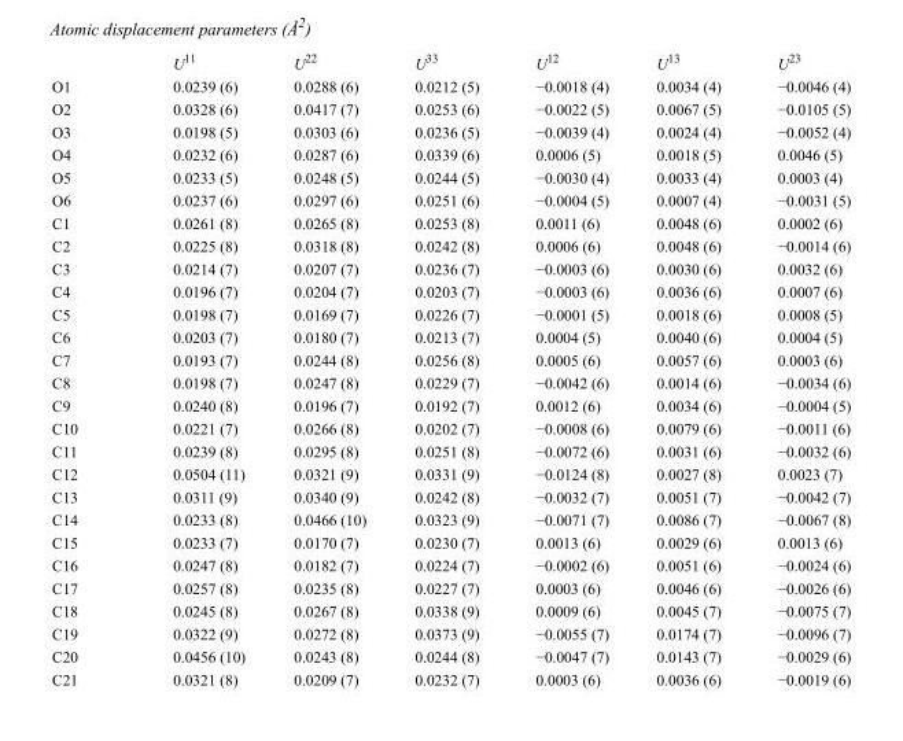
<table><thead><tr><td></td><td>U<sup>11</sup></td><td>U<sup>22</sup></td><td>U<sup>33</sup></td><td>U<sup>12</sup></td><td>U<sup>13</sup></td><td>U<sup>23</sup></td></tr></thead><tbody><tr><td>O1</td><td>0.0239 (6)</td><td>0.0288 (6)</td><td>0.0212 (5)</td><td>−0.0018 (4)</td><td>0.0034 (4)</td><td>−0.0046 (4)</td></tr><tr><td>O2</td><td>0.0328 (6)</td><td>0.0417 (7)</td><td>0.0253 (6)</td><td>−0.0022 (5)</td><td>0.0067 (5)</td><td>−0.0105 (5)</td></tr><tr><td>O3</td><td>0.0198 (5)</td><td>0.0303 (6)</td><td>0.0236 (5)</td><td>−0.0039 (4)</td><td>0.0024 (4)</td><td>−0.0052 (4)</td></tr><tr><td>O4</td><td>0.0232 (6)</td><td>0.0287 (6)</td><td>0.0339 (6)</td><td>0.0006 (5)</td><td>0.0018 (5)</td><td>0.0046 (5)</td></tr><tr><td>O5</td><td>0.0233 (5)</td><td>0.0248 (5)</td><td>0.0244 (5)</td><td>−0.0030 (4)</td><td>0.0033 (4)</td><td>0.0003 (4)</td></tr><tr><td>O6</td><td>0.0237 (6)</td><td>0.0297 (6)</td><td>0.0251 (6)</td><td>−0.0004 (5)</td><td>0.0007 (4)</td><td>−0.0031 (5)</td></tr><tr><td>C1</td><td>0.0261 (8)</td><td>0.0265 (8)</td><td>0.0253 (8)</td><td>0.0011 (6)</td><td>0.0048 (6)</td><td>0.0002 (6)</td></tr><tr><td>C2</td><td>0.0225 (8)</td><td>0.0318 (8)</td><td>0.0242 (8)</td><td>0.0006 (6)</td><td>0.0048 (6)</td><td>−0.0014 (6)</td></tr><tr><td>C3</td><td>0.0214 (7)</td><td>0.0207 (7)</td><td>0.0236 (7)</td><td>−0.0003 (6)</td><td>0.0030 (6)</td><td>0.0032 (6)</td></tr><tr><td>C4</td><td>0.0196 (7)</td><td>0.0204 (7)</td><td>0.0203 (7)</td><td>−0.0003 (6)</td><td>0.0036 (6)</td><td>0.0007 (6)</td></tr><tr><td>C5</td><td>0.0198 (7)</td><td>0.0169 (7)</td><td>0.0226 (7)</td><td>−0.0001 (5)</td><td>0.0018 (6)</td><td>0.0008 (5)</td></tr><tr><td>C6</td><td>0.0203 (7)</td><td>0.0180 (7)</td><td>0.0213 (7)</td><td>0.0004 (5)</td><td>0.0040 (6)</td><td>0.0004 (5)</td></tr><tr><td>C7</td><td>0.0193 (7)</td><td>0.0244 (8)</td><td>0.0256 (8)</td><td>0.0005 (6)</td><td>0.0057 (6)</td><td>0.0003 (6)</td></tr><tr><td>C8</td><td>0.0198 (7)</td><td>0.0247 (8)</td><td>0.0229 (7)</td><td>−0.0042 (6)</td><td>0.0014 (6)</td><td>−0.0034 (6)</td></tr><tr><td>C9</td><td>0.0240 (8)</td><td>0.0196 (7)</td><td>0.0192 (7)</td><td>0.0012 (6)</td><td>0.0034 (6)</td><td>−0.0004 (5)</td></tr><tr><td>C10</td><td>0.0221 (7)</td><td>0.0266 (8)</td><td>0.0202 (7)</td><td>−0.0008 (6)</td><td>0.0079 (6)</td><td>−0.0011 (6)</td></tr><tr><td>C11</td><td>0.0239 (8)</td><td>0.0295 (8)</td><td>0.0251 (8)</td><td>−0.0072 (6)</td><td>0.0031 (6)</td><td>−0.0032 (6)</td></tr><tr><td>C12</td><td>0.0504 (11)</td><td>0.0321 (9)</td><td>0.0331 (9)</td><td>−0.0124 (8)</td><td>0.0027 (8)</td><td>0.0023 (7)</td></tr><tr><td>C13</td><td>0.0311 (9)</td><td>0.0340 (9)</td><td>0.0242 (8)</td><td>−0.0032 (7)</td><td>0.0051 (7)</td><td>−0.0042 (7)</td></tr><tr><td>C14</td><td>0.0233 (8)</td><td>0.0466 (10)</td><td>0.0323 (9)</td><td>−0.0071 (7)</td><td>0.0086 (7)</td><td>−0.0067 (8)</td></tr><tr><td>C15</td><td>0.0233 (7)</td><td>0.0170 (7)</td><td>0.0230 (7)</td><td>0.0013 (6)</td><td>0.0029 (6)</td><td>0.0013 (6)</td></tr><tr><td>C16</td><td>0.0247 (8)</td><td>0.0182 (7)</td><td>0.0224 (7)</td><td>−0.0002 (6)</td><td>0.0051 (6)</td><td>−0.0024 (6)</td></tr><tr><td>C17</td><td>0.0257 (8)</td><td>0.0235 (8)</td><td>0.0227 (7)</td><td>0.0003 (6)</td><td>0.0046 (6)</td><td>−0.0026 (6)</td></tr><tr><td>C18</td><td>0.0245 (8)</td><td>0.0267 (8)</td><td>0.0338 (9)</td><td>0.0009 (6)</td><td>0.0045 (7)</td><td>−0.0075 (7)</td></tr><tr><td>C19</td><td>0.0322 (9)</td><td>0.0272 (8)</td><td>0.0373 (9)</td><td>−0.0055 (7)</td><td>0.0174 (7)</td><td>−0.0096 (7)</td></tr><tr><td>C20</td><td>0.0456 (10)</td><td>0.0243 (8)</td><td>0.0244 (8)</td><td>−0.0047 (7)</td><td>0.0143 (7)</td><td>−0.0029 (6)</td></tr><tr><td>C21</td><td>0.0321 (8)</td><td>0.0209 (7)</td><td>0.0232 (7)</td><td>0.0003 (6)</td><td>0.0036 (6)</td><td>−0.0019 (6)</td></tr></tbody></table>